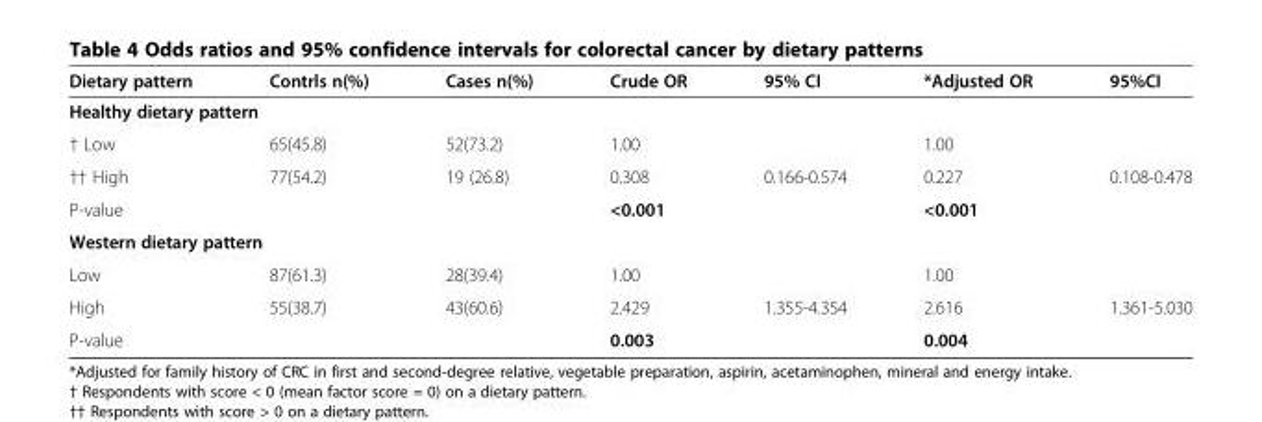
<table><thead><tr><td>Dietary pattern</td><td>Contrls n(%)</td><td>Cases n(%)</td><td>Crude OR</td><td>95% CI</td><td>*Adjusted OR</td><td>95%CI</td></tr></thead><tbody><tr><td colspan="7">Healthy dietary pattern</td></tr><tr><td>† Low</td><td>65(45.8)</td><td>52(73.2)</td><td>1.00</td><td></td><td>1.00</td><td></td></tr><tr><td>†† High</td><td>77(54.2)</td><td>19 (26.8)</td><td>0.308</td><td>0.166-0.574</td><td>0.227</td><td>0.108-0.478</td></tr><tr><td colspan="2">P-value</td><td></td><td>&lt;0.001</td><td></td><td>&lt;0.001</td><td></td></tr><tr><td colspan="7">Western dietary pattern</td></tr><tr><td>Low</td><td>87(61.3)</td><td>28(39.4)</td><td>1.00</td><td></td><td>1.00</td><td></td></tr><tr><td>High</td><td>55(38.7)</td><td>43(60.6)</td><td>2.429</td><td>1.355-4.354</td><td>2.616</td><td>1.361-5.030</td></tr><tr><td colspan="2">P-value</td><td></td><td>0.003</td><td></td><td>0.004</td><td></td></tr></tbody></table>